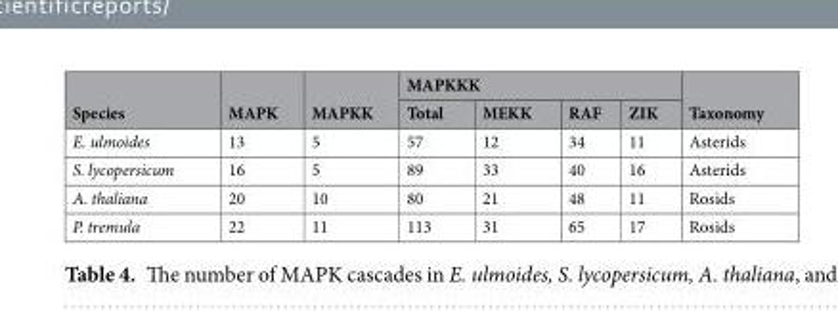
<table><thead><tr><td rowspan="2">Species</td><td rowspan="2">MAPK</td><td rowspan="2">MAPKK</td><td colspan="4">MAPKKK</td><td rowspan="2">Taxonomy</td></tr><tr><td>Total</td><td>MEKK</td><td>RAF</td><td>ZIK</td></tr></thead><tbody><tr><td>E. ulmoides</td><td>13</td><td>5</td><td>57</td><td>12</td><td>34</td><td>11</td><td>Asterids</td></tr><tr><td>S. lycopersicum</td><td>16</td><td>5</td><td>89</td><td>33</td><td>40</td><td>16</td><td>Asterids</td></tr><tr><td>A. thaliana</td><td>20</td><td>10</td><td>80</td><td>21</td><td>48</td><td>11</td><td>Rosids</td></tr><tr><td>P. tremula</td><td>22</td><td>11</td><td>113</td><td>31</td><td>65</td><td>17</td><td>Rosids</td></tr></tbody></table>